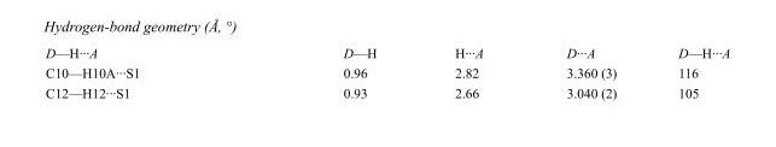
<table><tbody><tr><td>D—H···A</td><td>D—H</td><td>H···A</td><td>D···A</td><td>D—H···A</td></tr><tr><td>C10—H10A···S1</td><td>0.96</td><td>2.82</td><td>3.360 (3)</td><td>116</td></tr><tr><td>C12—H12···S1</td><td>0.93</td><td>2.66</td><td>3.040 (2)</td><td>105</td></tr></tbody></table>